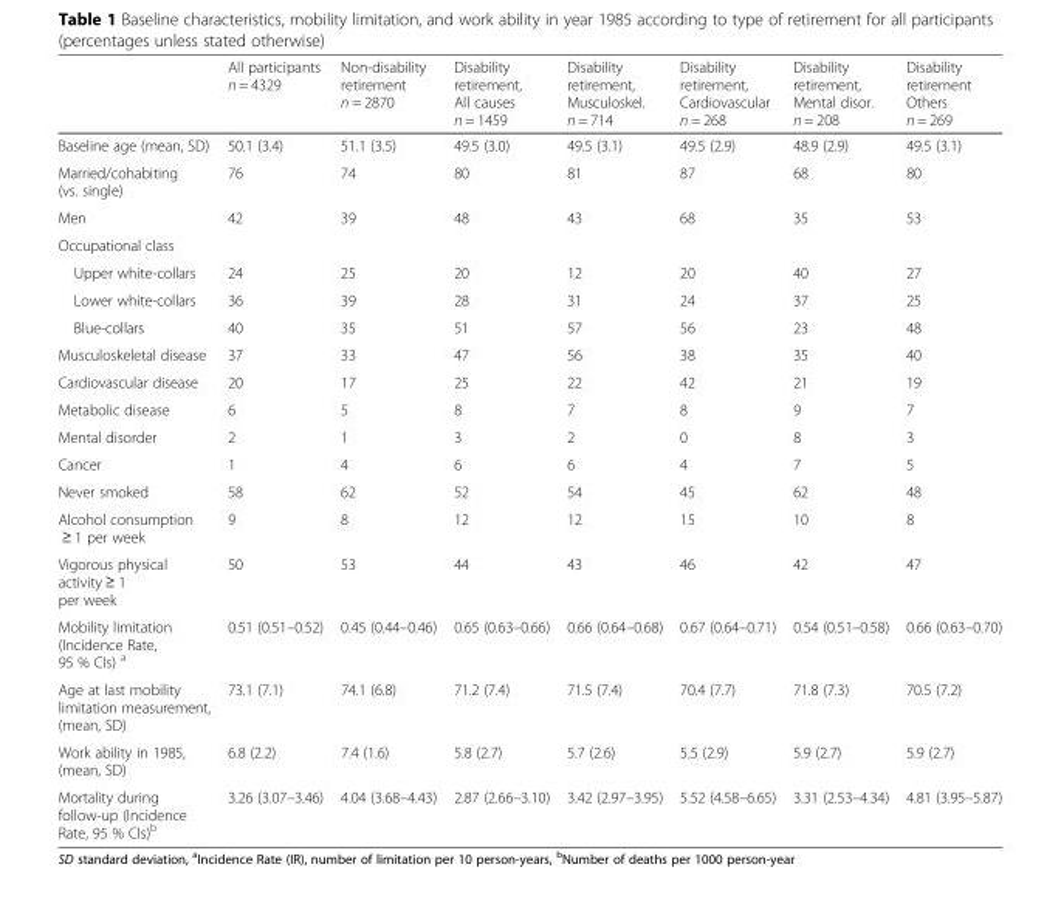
<table><thead><tr><td></td><td>All participants n = 4329</td><td>Non-disability retirement n = 2870</td><td>Disability retirement, All causes n = 1459</td><td>Disability retirement, Musculoskel. n = 714</td><td>Disability retirement, Cardiovascular n = 268</td><td>Disability retirement, Mental disor. n = 208</td><td>Disability retirement Others n = 269</td></tr></thead><tbody><tr><td>Baseline age (mean, SD)</td><td>50.1 (3.4)</td><td>51.1 (3.5)</td><td>49.5 (3.0)</td><td>49.5 (3.1)</td><td>49.5 (2.9)</td><td>48.9 (2.9)</td><td>49.5 (3.1)</td></tr><tr><td>Married/cohabiting (vs. single)</td><td>76</td><td>74</td><td>80</td><td>81</td><td>87</td><td>68</td><td>80</td></tr><tr><td>Men</td><td>42</td><td>39</td><td>48</td><td>43</td><td>68</td><td>35</td><td>53</td></tr><tr><td colspan="8">Occupational class</td></tr><tr><td>Upper white-collars</td><td>24</td><td>25</td><td>20</td><td>12</td><td>20</td><td>40</td><td>27</td></tr><tr><td>Lower white-collars</td><td>36</td><td>39</td><td>28</td><td>31</td><td>24</td><td>37</td><td>25</td></tr><tr><td>Blue-collars</td><td>40</td><td>35</td><td>51</td><td>57</td><td>56</td><td>23</td><td>48</td></tr><tr><td>Musculoskeletal disease</td><td>37</td><td>33</td><td>47</td><td>56</td><td>38</td><td>35</td><td>40</td></tr><tr><td>Cardiovascular disease</td><td>20</td><td>17</td><td>25</td><td>22</td><td>42</td><td>21</td><td>19</td></tr><tr><td>Metabolic disease</td><td>6</td><td>5</td><td>8</td><td>7</td><td>8</td><td>9</td><td>7</td></tr><tr><td>Mental disorder</td><td>2</td><td>1</td><td>3</td><td>2</td><td>0</td><td>8</td><td>3</td></tr><tr><td>Cancer</td><td>1</td><td>4</td><td>6</td><td>6</td><td>4</td><td>7</td><td>5</td></tr><tr><td>Never smoked</td><td>58</td><td>62</td><td>52</td><td>54</td><td>45</td><td>62</td><td>48</td></tr><tr><td>Alcohol consumption ≥ 1 per week</td><td>9</td><td>8</td><td>12</td><td>12</td><td>15</td><td>10</td><td>8</td></tr><tr><td>Vigorous physical activity ≥ 1 per week</td><td>50</td><td>53</td><td>44</td><td>43</td><td>46</td><td>42</td><td>47</td></tr><tr><td>Mobility limitation (Incidence Rate, 95 % CIs) <sup>a</sup></td><td>0.51 (0.51–0.52)</td><td>0.45 (0.44–0.46)</td><td>0.65 (0.63–0.66)</td><td>0.66 (0.64–0.68)</td><td>0.67 (0.64–0.71)</td><td>0.54 (0.51–0.58)</td><td>0.66 (0.63–0.70)</td></tr><tr><td>Age at last mobility limitation measurement, (mean, SD)</td><td>73.1 (7.1)</td><td>74.1 (6.8)</td><td>71.2 (7.4)</td><td>71.5 (7.4)</td><td>70.4 (7.7)</td><td>71.8 (7.3)</td><td>70.5 (7.2)</td></tr><tr><td>Work ability in 1985, (mean, SD)</td><td>6.8 (2.2)</td><td>7.4 (1.6)</td><td>5.8 (2.7)</td><td>5.7 (2.6)</td><td>5.5 (2.9)</td><td>5.9 (2.7)</td><td>5.9 (2.7)</td></tr><tr><td>Mortality during follow-up (Incidence Rate, 95 % CIs)<sup>b</sup></td><td>3.26 (3.07–3.46)</td><td>4.04 (3.68–4.43)</td><td>2.87 (2.66–3.10)</td><td>3.42 (2.97–3.95)</td><td>5.52 (4.58–6.65)</td><td>3.31 (2.53–4.34)</td><td>4.81 (3.95–5.87)</td></tr></tbody></table>